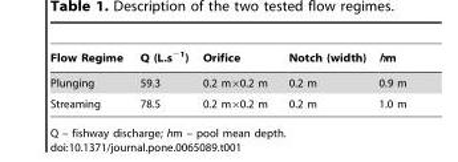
<table><thead><tr><td>Flow Regime</td><td>Q (L.s<sup>−1</sup>)</td><td>Orifice</td><td>Notch (width)</td><td>hm</td></tr></thead><tbody><tr><td>Plunging</td><td>59.3</td><td>0.2 m×0.2 m</td><td>0.2 m</td><td>0.9 m</td></tr><tr><td>Streaming</td><td>78.5</td><td>0.2 m×0.2 m</td><td>0.2 m</td><td>1.0 m</td></tr></tbody></table>